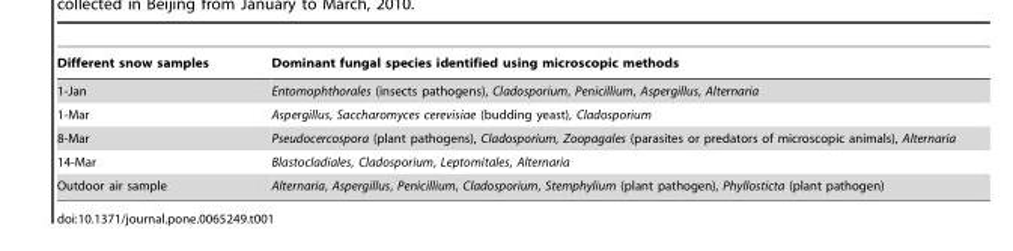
<table><thead><tr><td>Different snow samples</td><td>Dominant fungal species identified using microscopic methods</td></tr></thead><tbody><tr><td>1-Jan</td><td>Entomophthorales (insects pathogens), Cladosporium, Penicillium, Aspergillus, Alternaria</td></tr><tr><td>1-Mar</td><td>Aspergillus, Saccharomyces cerevisiae (budding yeast), Cladosporium</td></tr><tr><td>8-Mar</td><td>Pseudocercospora (plant pathogens), Cladosporium, Zoopagales (parasites or predators of microscopic animals), Alternaria</td></tr><tr><td>14-Mar</td><td>Blastocladiales, Cladosporium, Leptomitales, Alternaria</td></tr><tr><td>Outdoor air sample</td><td>Alternaria, Aspergillus, Penicillium, Cladosporium, Stemphylium (plant pathogen), Phyllosticta (plant pathogen)</td></tr></tbody></table>